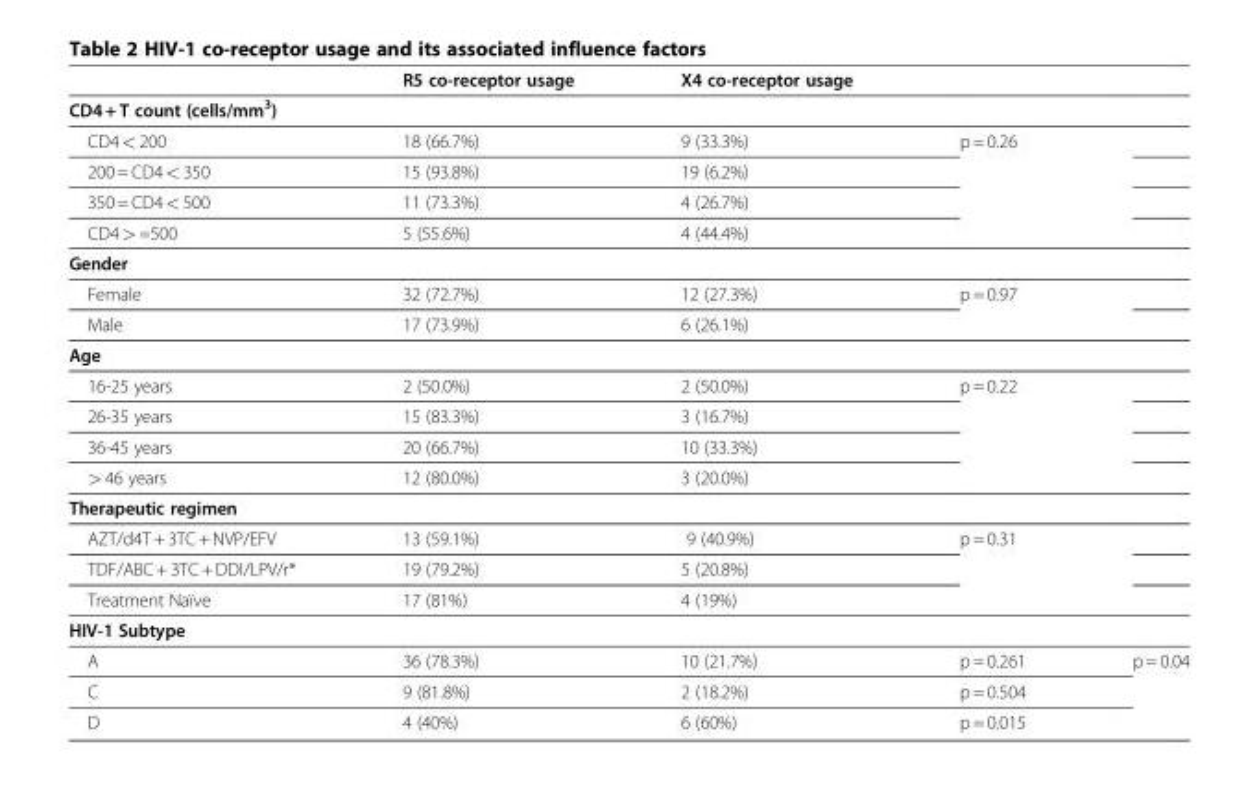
<table><thead><tr><td></td><td>R5 co-receptor usage</td><td>X4 co-receptor usage</td><td></td><td></td></tr></thead><tbody><tr><td colspan="5">CD4 + T count (cells/mm<sup>3</sup>)</td></tr><tr><td>CD4 &lt; 200</td><td>18 (66.7%)</td><td>9 (33.3%)</td><td>p = 0.26</td><td></td></tr><tr><td>200 = CD4 &lt; 350</td><td>15 (93.8%)</td><td>19 (6.2%)</td><td></td><td></td></tr><tr><td>350 = CD4 &lt; 500</td><td>11 (73.3%)</td><td>4 (26.7%)</td><td></td><td></td></tr><tr><td>CD4 &gt; =500</td><td>5 (55.6%)</td><td>4 (44.4%)</td><td></td><td></td></tr><tr><td colspan="5">Gender</td></tr><tr><td>Female</td><td>32 (72.7%)</td><td>12 (27.3%)</td><td>p = 0.97</td><td></td></tr><tr><td>Male</td><td>17 (73.9%)</td><td>6 (26.1%)</td><td></td><td></td></tr><tr><td colspan="5">Age</td></tr><tr><td>16-25 years</td><td>2 (50.0%)</td><td>2 (50.0%)</td><td>p = 0.22</td><td></td></tr><tr><td>26-35 years</td><td>15 (83.3%)</td><td>3 (16.7%)</td><td></td><td></td></tr><tr><td>36-45 years</td><td>20 (66.7%)</td><td>10 (33.3%)</td><td></td><td></td></tr><tr><td>&gt; 46 years</td><td>12 (80.0%)</td><td>3 (20.0%)</td><td></td><td></td></tr><tr><td colspan="5">Therapeutic regimen</td></tr><tr><td>AZT/d4T + 3TC + NVP/EFV</td><td>13 (59.1%)</td><td>9 (40.9%)</td><td>p = 0.31</td><td></td></tr><tr><td>TDF/ABC + 3TC + DDI/LPV/r*</td><td>19 (79.2%)</td><td>5 (20.8%)</td><td></td><td></td></tr><tr><td>Treatment Naïve</td><td>17 (81%)</td><td>4 (19%)</td><td></td><td></td></tr><tr><td colspan="5">HIV-1 Subtype</td></tr><tr><td>A</td><td>36 (78.3%)</td><td>10 (21.7%)</td><td>p = 0.261</td><td>p = 0.04</td></tr><tr><td>C</td><td>9 (81.8%)</td><td>2 (18.2%)</td><td>p = 0.504</td><td></td></tr><tr><td>D</td><td>4 (40%)</td><td>6 (60%)</td><td>p = 0.015</td><td></td></tr></tbody></table>